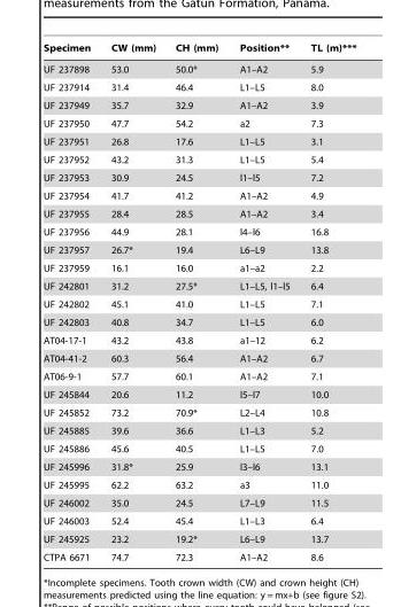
<table><thead><tr><td>Specimen</td><td>CW (mm)</td><td>CH (mm)</td><td>Position**</td><td>TL (m)***</td></tr></thead><tbody><tr><td>UF 237898</td><td>53.0</td><td>50.0*</td><td>A1–A2</td><td>5.9</td></tr><tr><td>UF 237914</td><td>31.4</td><td>46.4</td><td>L1–L5</td><td>8.0</td></tr><tr><td>UF 237949</td><td>35.7</td><td>32.9</td><td>A1–A2</td><td>3.9</td></tr><tr><td>UF 237950</td><td>47.7</td><td>54.2</td><td>a2</td><td>7.3</td></tr><tr><td>UF 237951</td><td>26.8</td><td>17.6</td><td>L1–L5</td><td>3.1</td></tr><tr><td>UF 237952</td><td>43.2</td><td>31.3</td><td>L1–L5</td><td>5.4</td></tr><tr><td>UF 237953</td><td>30.9</td><td>24.5</td><td>l1–l5</td><td>7.2</td></tr><tr><td>UF 237954</td><td>41.7</td><td>41.2</td><td>A1–A2</td><td>4.9</td></tr><tr><td>UF 237955</td><td>28.4</td><td>28.5</td><td>A1–A2</td><td>3.4</td></tr><tr><td>UF 237956</td><td>44.9</td><td>28.1</td><td>l4–l6</td><td>16.8</td></tr><tr><td>UF 237957</td><td>26.7*</td><td>19.4</td><td>L6–L9</td><td>13.8</td></tr><tr><td>UF 237959</td><td>16.1</td><td>16.0</td><td>a1–a2</td><td>2.2</td></tr><tr><td>UF 242801</td><td>31.2</td><td>27.5*</td><td>L1–L5, l1–l5</td><td>6.4</td></tr><tr><td>UF 242802</td><td>45.1</td><td>41.0</td><td>L1–L5</td><td>7.1</td></tr><tr><td>UF 242803</td><td>40.8</td><td>34.7</td><td>L1–L5</td><td>6.0</td></tr><tr><td>AT04-17-1</td><td>43.2</td><td>43.8</td><td>a1–12</td><td>6.2</td></tr><tr><td>AT04-41-2</td><td>60.3</td><td>56.4</td><td>A1–A2</td><td>6.7</td></tr><tr><td>AT06-9-1</td><td>57.7</td><td>60.1</td><td>A1–A2</td><td>7.1</td></tr><tr><td>UF 245844</td><td>20.6</td><td>11.2</td><td>l5–l7</td><td>10.0</td></tr><tr><td>UF 245852</td><td>73.2</td><td>70.9*</td><td>L2–L4</td><td>10.8</td></tr><tr><td>UF 245885</td><td>39.6</td><td>36.6</td><td>L1–L3</td><td>5.2</td></tr><tr><td>UF 245886</td><td>45.6</td><td>40.5</td><td>L1–L5</td><td>7.0</td></tr><tr><td>UF 245996</td><td>31.8*</td><td>25.9</td><td>l3–l6</td><td>13.1</td></tr><tr><td>UF 245995</td><td>62.2</td><td>63.2</td><td>a3</td><td>11.0</td></tr><tr><td>UF 246002</td><td>35.0</td><td>24.5</td><td>L7–L9</td><td>11.5</td></tr><tr><td>UF 246003</td><td>52.4</td><td>45.4</td><td>L1–L3</td><td>6.4</td></tr><tr><td>UF 245925</td><td>23.2</td><td>19.2*</td><td>L6–L9</td><td>13.7</td></tr><tr><td>CTPA 6671</td><td>74.7</td><td>72.3</td><td>A1–A2</td><td>8.6</td></tr></tbody></table>